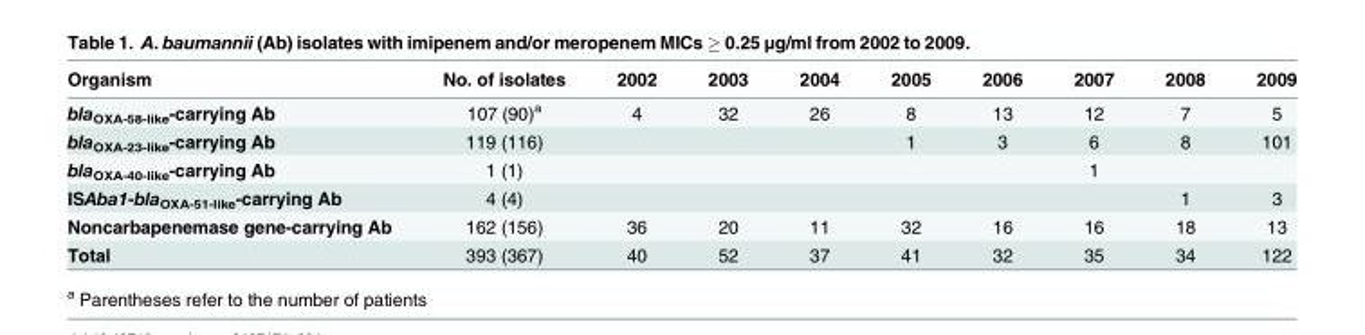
<table><thead><tr><td>Organism</td><td>No. of isolates</td><td>2002</td><td>2003</td><td>2004</td><td>2005</td><td>2006</td><td>2007</td><td>2008</td><td>2009</td></tr></thead><tbody><tr><td>bla<sub>OXA-58-like</sub>-carrying Ab</td><td>107 (90)<sup>a</sup></td><td>4</td><td>32</td><td>26</td><td>8</td><td>13</td><td>12</td><td>7</td><td>5</td></tr><tr><td>bla<sub>OXA-23-like</sub>-carrying Ab</td><td>119 (116)</td><td></td><td></td><td></td><td>1</td><td>3</td><td>6</td><td>8</td><td>101</td></tr><tr><td>bla<sub>OXA-40-like</sub>-carrying Ab</td><td>1 (1)</td><td></td><td></td><td></td><td></td><td></td><td>1</td><td></td><td></td></tr><tr><td>ISAba1-bla<sub>OXA-51-like</sub>-carrying Ab</td><td>4 (4)</td><td></td><td></td><td></td><td></td><td></td><td></td><td>1</td><td>3</td></tr><tr><td>Noncarbapenemase gene-carrying Ab</td><td>162 (156)</td><td>36</td><td>20</td><td>11</td><td>32</td><td>16</td><td>16</td><td>18</td><td>13</td></tr><tr><td>Total</td><td>393 (367)</td><td>40</td><td>52</td><td>37</td><td>41</td><td>32</td><td>35</td><td>34</td><td>122</td></tr></tbody></table>